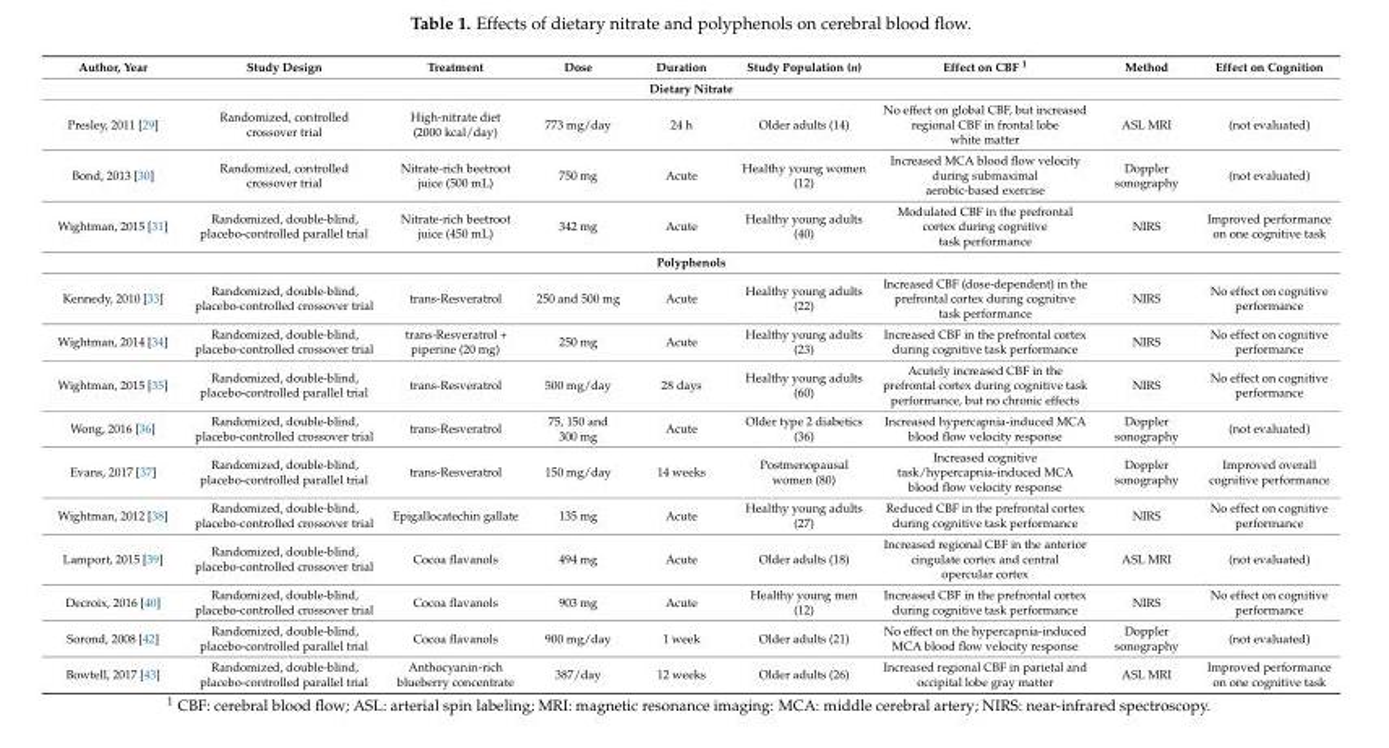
<table><thead><tr><td>Author, Year</td><td>Study Design</td><td>Treatment</td><td>Dose</td><td>Duration</td><td>Study Population (n)</td><td>Effect on CBF <sup>1</sup></td><td>Method</td><td>Effect on Cognition</td></tr></thead><tbody><tr><td colspan="9">Dietary Nitrate</td></tr><tr><td>Presley, 2011 [29]</td><td>Randomized, controlled crossover trial</td><td>High-nitrate diet (2000 kcal/day)</td><td>773 mg/day</td><td>24 h</td><td>Older adults (14)</td><td>No effect on global CBF, but increased regional CBF in frontal lobe white matter</td><td>ASL MRI</td><td>(not evaluated)</td></tr><tr><td>Bond, 2013 [30]</td><td>Randomized, controlled crossover trial</td><td>Nitrate-rich beetroot juice (500 mL)</td><td>750 mg</td><td>Acute</td><td>Healthy young women (12)</td><td>Increased MCA blood flow velocity during submaximal aerobic-based exercise</td><td>Doppler sonography</td><td>(not evaluated)</td></tr><tr><td>Wightman, 2015 [31]</td><td>Randomized, double-blind, placebo-controlled parallel trial</td><td>Nitrate-rich beetroot juice (450 mL)</td><td>342 mg</td><td>Acute</td><td>Healthy young adults (40)</td><td>Modulated CBF in the prefrontal cortex during cognitive task performance</td><td>NIRS</td><td>Improved performance on one cognitive task</td></tr><tr><td colspan="9">Polyphenols</td></tr><tr><td>Kennedy, 2010 [33]</td><td>Randomized, double-blind, placebo-controlled crossover trial</td><td>trans-Resveratrol</td><td>250 and 500 mg</td><td>Acute</td><td>Healthy young adults (22)</td><td>Increased CBF (dose-dependent) in the prefrontal cortex during cognitive task performance</td><td>NIRS</td><td>No effect on cognitive performance</td></tr><tr><td>Wightman, 2014 [34]</td><td>Randomized, double-blind, placebo-controlled crossover trial</td><td>trans-Resveratrol + piperine (20 mg)</td><td>250 mg</td><td>Acute</td><td>Healthy young adults (23)</td><td>Increased CBF in the prefrontal cortex during cognitive task performance</td><td>NIRS</td><td>No effect on cognitive performance</td></tr><tr><td>Wightman, 2015 [35]</td><td>Randomized, double-blind, placebo-controlled parallel trial</td><td>trans-Resveratrol</td><td>500 mg/day</td><td>28 days</td><td>Healthy young adults (60)</td><td>Acutely increased CBF in the prefrontal cortex during cognitive task performance, but no chronic effects</td><td>NIRS</td><td>No effect on cognitive performance</td></tr><tr><td>Wong, 2016 [36]</td><td>Randomized, double-blind, placebo-controlled crossover trial</td><td>trans-Resveratrol</td><td>75, 150 and 300 mg</td><td>Acute</td><td>Older type 2 diabetics (36)</td><td>Increased hypercapnia-induced MCA blood flow velocity response</td><td>Doppler sonography</td><td>(not evaluated)</td></tr><tr><td>Evans, 2017 [37]</td><td>Randomized, double-blind, placebo-controlled parallel trial</td><td>trans-Resveratrol</td><td>150 mg/day</td><td>14 weeks</td><td>Postmenopausal women (80)</td><td>Increased cognitive task/hypercapnia-induced MCA blood flow velocity response</td><td>Doppler sonography</td><td>Improved overall cognitive performance</td></tr><tr><td>Wightman, 2012 [38]</td><td>Randomized, double-blind, placebo-controlled crossover trial</td><td>Epigallocatechin gallate</td><td>135 mg</td><td>Acute</td><td>Healthy young adults (27)</td><td>Reduced CBF in the prefrontal cortex during cognitive task performance</td><td>NIRS</td><td>No effect on cognitive performance</td></tr><tr><td>Lamport, 2015 [39]</td><td>Randomized, double-blind, placebo-controlled crossover trial</td><td>Cocoa flavanols</td><td>494 mg</td><td>Acute</td><td>Older adults (18)</td><td>Increased regional CBF in the anterior cingulate cortex and central opercular cortex</td><td>ASL MRI</td><td>(not evaluated)</td></tr><tr><td>Decroix, 2016 [40]</td><td>Randomized, double-blind, placebo-controlled crossover trial</td><td>Cocoa flavanols</td><td>903 mg</td><td>Acute</td><td>Healthy young men (12)</td><td>Increased CBF in the prefrontal cortex during cognitive task performance</td><td>NIRS</td><td>No effect on cognitive performance</td></tr><tr><td>Sorond, 2008 [42]</td><td>Randomized, double-blind, placebo-controlled parallel trial</td><td>Cocoa flavanols</td><td>900 mg/day</td><td>1 week</td><td>Older adults (21)</td><td>No effect on the hypercapnia-induced MCA blood flow velocity response</td><td>Doppler sonography</td><td>(not evaluated)</td></tr><tr><td>Bowtell, 2017 [43]</td><td>Randomized, double-blind, placebo-controlled parallel trial</td><td>Anthocyanin-rich blueberry concentrate</td><td>387/day</td><td>12 weeks</td><td>Older adults (26)</td><td>Increased regional CBF in parietal and occipital lobe gray matter</td><td>ASL MRI</td><td>Improved performance on one cognitive task</td></tr></tbody></table>